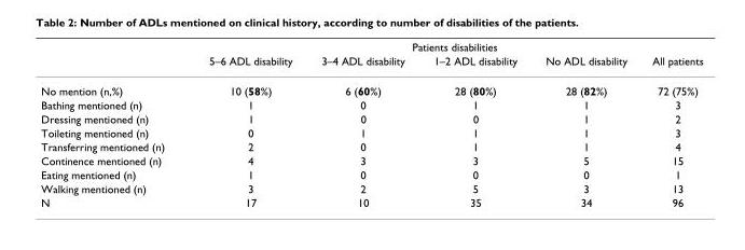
<table><thead><tr><td rowspan="2"></td><td colspan="5">Patients disabilities</td></tr><tr><td>5–6 ADL disability</td><td>3–4 ADL disability</td><td>1–2 ADL disability</td><td>No ADL disability</td><td>All patients</td></tr></thead><tbody><tr><td>No mention (n,%)</td><td>10 (58%)</td><td>6 (60%)</td><td>28 (80%)</td><td>28 (82%)</td><td>72 (75%)</td></tr><tr><td>Bathing mentioned (n)</td><td>1</td><td>0</td><td>1</td><td>1</td><td>3</td></tr><tr><td>Dressing mentioned (n)</td><td>1</td><td>0</td><td>0</td><td>1</td><td>2</td></tr><tr><td>Toileting mentioned (n)</td><td>0</td><td>1</td><td>1</td><td>1</td><td>3</td></tr><tr><td>Transferring mentioned (n)</td><td>2</td><td>0</td><td>1</td><td>1</td><td>4</td></tr><tr><td>Continence mentioned (n)</td><td>4</td><td>3</td><td>3</td><td>5</td><td>15</td></tr><tr><td>Eating mentioned (n)</td><td>1</td><td>0</td><td>0</td><td>0</td><td>1</td></tr><tr><td>Walking mentioned (n)</td><td>3</td><td>2</td><td>5</td><td>3</td><td>13</td></tr><tr><td>N</td><td>17</td><td>10</td><td>35</td><td>34</td><td>96</td></tr></tbody></table>